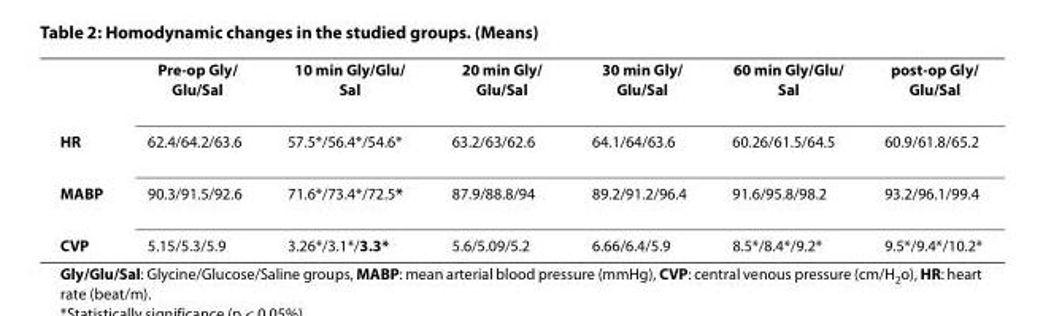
<table><thead><tr><td></td><td>Pre-op Gly/ Glu/Sal</td><td>10 min Gly/Glu/ Sal</td><td>20 min Gly/ Glu/Sal</td><td>30 min Gly/ Glu/Sal</td><td>60 min Gly/Glu/ Sal</td><td>post-op Gly/ Glu/Sal</td></tr></thead><tbody><tr><td>HR</td><td>62.4/64.2/63.6</td><td>57.5*/56.4*/54.6*</td><td>63.2/63/62.6</td><td>64.1/64/63.6</td><td>60.26/61.5/64.5</td><td>60.9/61.8/65.2</td></tr><tr><td>MABP</td><td>90.3/91.5/92.6</td><td>71.6*/73.4*/72.5*</td><td>87.9/88.8/94</td><td>89.2/91.2/96.4</td><td>91.6/95.8/98.2</td><td>93.2/96.1/99.4</td></tr><tr><td>CVP</td><td>5.15/5.3/5.9</td><td>3.26*/3.1*/3.3*</td><td>5.6/5.09/5.2</td><td>6.66/6.4/5.9</td><td>8.5*/8.4*/9.2*</td><td>9.5*/9.4*/10.2*</td></tr></tbody></table>